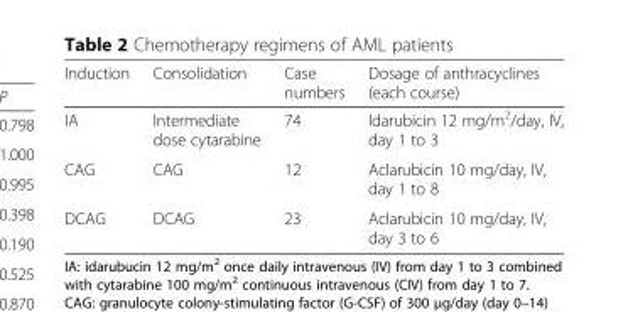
<table><thead><tr><td>Induction</td><td>Consolidation</td><td>Case numbers</td><td>Dosage of anthracyclines (each course)</td></tr></thead><tbody><tr><td>IA</td><td>Intermediate dose cytarabine</td><td>74</td><td>Idarubicin 12 mg/m<sup>2</sup>/day, IV, day 1 to 3</td></tr><tr><td>CAG</td><td>CAG</td><td>12</td><td>Aclarubicin 10 mg/day, IV, day 1 to 8</td></tr><tr><td>DCAG</td><td>DCAG</td><td>23</td><td>Aclarubicin 10 mg/day, IV, day 3 to 6</td></tr></tbody></table>